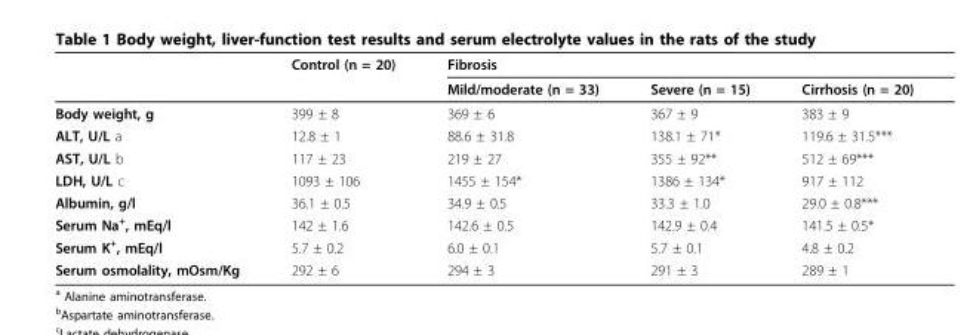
<table><thead><tr><td rowspan="2"></td><td rowspan="2">Control (n = 20)</td><td colspan="3">Fibrosis</td></tr><tr><td>Mild/moderate (n = 33)</td><td>Severe (n = 15)</td><td>Cirrhosis (n = 20)</td></tr></thead><tbody><tr><td>Body weight, g</td><td>399 ± 8</td><td>369 ± 6</td><td>367 ± 9</td><td>383 ± 9</td></tr><tr><td>ALT, U/L a</td><td>12.8 ± 1</td><td>88.6 ± 31.8</td><td>138.1 ± 71*</td><td>119.6 ± 31.5***</td></tr><tr><td>AST, U/L b</td><td>117 ± 23</td><td>219 ± 27</td><td>355 ± 92**</td><td>512 ± 69***</td></tr><tr><td>LDH, U/L c</td><td>1093 ± 106</td><td>1455 ± 154*</td><td>1386 ± 134*</td><td>917 ± 112</td></tr><tr><td>Albumin, g/l</td><td>36.1 ± 0.5</td><td>34.9 ± 0.5</td><td>33.3 ± 1.0</td><td>29.0 ± 0.8***</td></tr><tr><td>Serum Na<sup>+</sup>, mEq/l</td><td>142 ± 1.6</td><td>142.6 ± 0.5</td><td>142.9 ± 0.4</td><td>141.5 ± 0.5*</td></tr><tr><td>Serum K<sup>+</sup>, mEq/l</td><td>5.7 ± 0.2</td><td>6.0 ± 0.1</td><td>5.7 ± 0.1</td><td>4.8 ± 0.2</td></tr><tr><td>Serum osmolality, mOsm/Kg</td><td>292 ± 6</td><td>294 ± 3</td><td>291 ± 3</td><td>289 ± 1</td></tr></tbody></table>